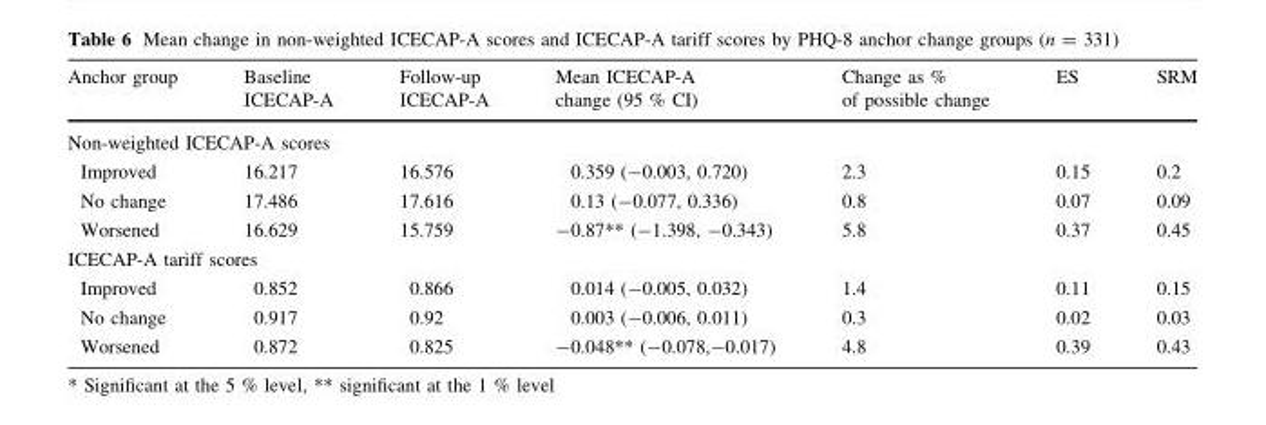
<table><thead><tr><td>Anchor group</td><td>Baseline ICECAP-A</td><td>Follow-up ICECAP-A</td><td>Mean ICECAP-A change (95 % CI)</td><td>Change as % of possible change</td><td>ES</td><td>SRM</td></tr></thead><tbody><tr><td colspan="7">Non-weighted ICECAP-A scores</td></tr><tr><td>Improved</td><td>16.217</td><td>16.576</td><td>0.359 (-0.003, 0.720)</td><td>2.3</td><td>0.15</td><td>0.2</td></tr><tr><td>No change</td><td>17.486</td><td>17.616</td><td>0.13 (-0.077, 0.336)</td><td>0.8</td><td>0.07</td><td>0.09</td></tr><tr><td>Worsened</td><td>16.629</td><td>15.759</td><td>-0.87** (-1.398, -0.343)</td><td>5.8</td><td>0.37</td><td>0.45</td></tr><tr><td colspan="7">ICECAP-A tariff scores</td></tr><tr><td>Improved</td><td>0.852</td><td>0.866</td><td>0.014 (-0.005, 0.032)</td><td>1.4</td><td>0.11</td><td>0.15</td></tr><tr><td>No change</td><td>0.917</td><td>0.92</td><td>0.003 (-0.006, 0.011)</td><td>0.3</td><td>0.02</td><td>0.03</td></tr><tr><td>Worsened</td><td>0.872</td><td>0.825</td><td>-0.048** (-0.078,-0.017)</td><td>4.8</td><td>0.39</td><td>0.43</td></tr></tbody></table>